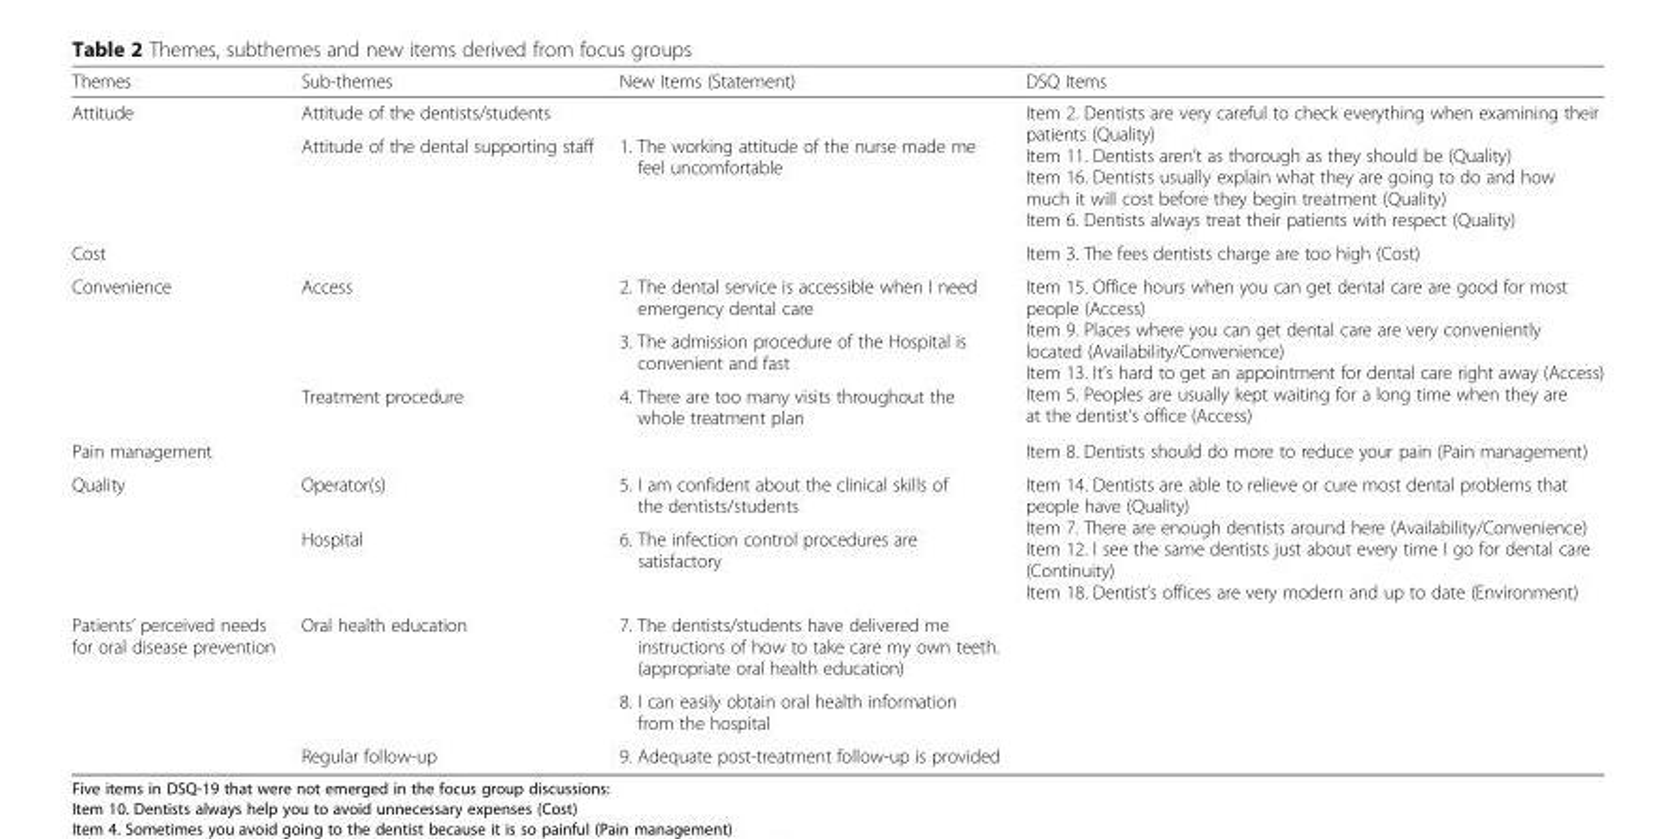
<table><thead><tr><td>Themes</td><td>Sub-themes</td><td>New Items (Statement)</td><td>DSQ Items</td></tr></thead><tbody><tr><td rowspan="2">Attitude</td><td>Attitude of the dentists/students</td><td></td><td rowspan="2">Item 2. Dentists are very careful to check everything when examining their patients (Quality) Item 11. Dentists aren’t as thorough as they should be (Quality) Item 16. Dentists usually explain what they are going to do and how much it will cost before they begin treatment (Quality) Item 6. Dentists always treat their patients with respect (Quality)</td></tr><tr><td>Attitude of the dental supporting staff</td><td>1. The working attitude of the nurse made me feel uncomfortable</td></tr><tr><td>Cost</td><td></td><td></td><td>Item 3. The fees dentists charge are too high (Cost)</td></tr><tr><td rowspan="3">Convenience</td><td>Access</td><td>2. The dental service is accessible when I need emergency dental care</td><td rowspan="3">Item 15. Office hours when you can get dental care are good for most people (Access) Item 9. Places where you can get dental care are very conveniently located (Availability/Convenience) Item 13. It’s hard to get an appointment for dental care right away (Access) Item 5. Peoples are usually kept waiting for a long time when they are at the dentist’s office (Access)</td></tr><tr><td></td><td>3. The admission procedure of the Hospital is convenient and fast</td></tr><tr><td>Treatment procedure</td><td>4. There are too many visits throughout the whole treatment plan</td></tr><tr><td>Pain management</td><td></td><td></td><td>Item 8. Dentists should do more to reduce your pain (Pain management)</td></tr><tr><td rowspan="2">Quality</td><td>Operator(s)</td><td>5. I am confident about the clinical skills of the dentists/students</td><td rowspan="2">Item 14. Dentists are able to relieve or cure most dental problems that people have (Quality) Item 7. There are enough dentists around here (Availability/Convenience) Item 12. I see the same dentists just about every time I go for dental care (Continuity) Item 18. Dentist’s offices are very modern and up to date (Environment)</td></tr><tr><td>Hospital</td><td>6. The infection control procedures are satisfactory</td></tr><tr><td rowspan="3">Patients’ perceived needs for oral disease prevention</td><td>Oral health education</td><td>7. The dentists/students have delivered me instructions of how to take care my own teeth. (appropriate oral health education)</td><td rowspan="3"></td></tr><tr><td></td><td>8. I can easily obtain oral health information from the hospital</td></tr><tr><td>Regular follow-up</td><td>9. Adequate post-treatment follow-up is provided</td></tr></tbody></table>